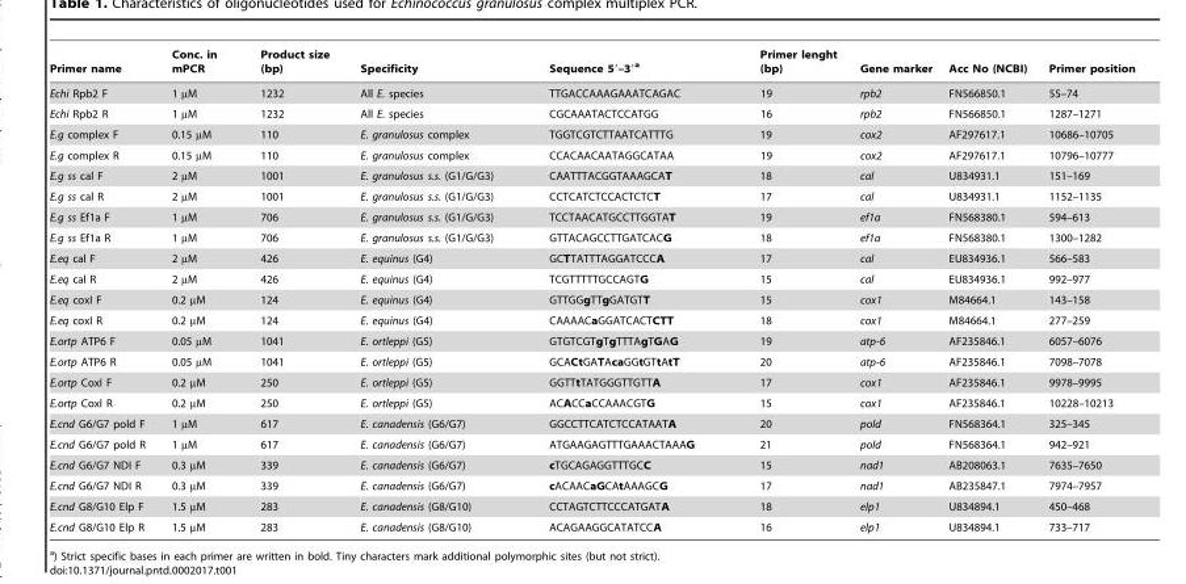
<table><thead><tr><td>Primer name</td><td>Conc. in mPCR</td><td>Product size (bp)</td><td>Specificity</td><td>Sequence 5′–3′<sup>a</sup></td><td>Primer lenght (bp)</td><td>Gene marker</td><td>Acc No (NCBI)</td><td>Primer position</td></tr></thead><tbody><tr><td>Echi Rpb2 F</td><td>1 µM</td><td>1232</td><td>All E. species</td><td>TTGACCAAAGAAATCAGAC</td><td>19</td><td>rpb2</td><td>FN566850.1</td><td>55–74</td></tr><tr><td>Echi Rpb2 R</td><td>1 µM</td><td>1232</td><td>All E. species</td><td>CGCAAATACTCCATGG</td><td>16</td><td>rpb2</td><td>FN566850.1</td><td>1287–1271</td></tr><tr><td>E.g complex F</td><td>0.15 µM</td><td>110</td><td>E. granulosus complex</td><td>TGGTCGTCTTAATCATTTG</td><td>19</td><td>cox2</td><td>AF297617.1</td><td>10686–10705</td></tr><tr><td>E.g complex R</td><td>0.15 µM</td><td>110</td><td>E. granulosus complex</td><td>CCACAACAATAGGCATAA</td><td>19</td><td>cox2</td><td>AF297617.1</td><td>10796–10777</td></tr><tr><td>E.g ss cal F</td><td>2 µM</td><td>1001</td><td>E. granulosus s.s. (G1/G/G3)</td><td>CAATTTACGGTAAAGCAT</td><td>18</td><td>cal</td><td>U834931.1</td><td>151–169</td></tr><tr><td>E.g ss cal R</td><td>2 µM</td><td>1001</td><td>E. granulosus s.s. (G1/G/G3)</td><td>CCTCATCTCCACTCTCT</td><td>17</td><td>cal</td><td>U834931.1</td><td>1152–1135</td></tr><tr><td>E.g ss Ef1a F</td><td>1 µM</td><td>706</td><td>E. granulosus s.s. (G1/G/G3)</td><td>TCCTAACATGCCTTGGTAT</td><td>19</td><td>ef1a</td><td>FN568380.1</td><td>594–613</td></tr><tr><td>E.g ss Ef1a R</td><td>1 µM</td><td>706</td><td>E. granulosus s.s. (G1/G/G3)</td><td>GTTACAGCCTTGATCACG</td><td>18</td><td>ef1a</td><td>FN568380.1</td><td>1300–1282</td></tr><tr><td>E.eq cal F</td><td>2 µM</td><td>426</td><td>E. equinus (G4)</td><td>GCTTATTTAGGATCCCA</td><td>17</td><td>cal</td><td>EU834936.1</td><td>566–583</td></tr><tr><td>E.eq cal R</td><td>2 µM</td><td>426</td><td>E. equinus (G4)</td><td>TCGTTTTTGCCAGTG</td><td>15</td><td>cal</td><td>EU834936.1</td><td>992–977</td></tr><tr><td>E.eq coxI F</td><td>0.2 µM</td><td>124</td><td>E. equinus (G4)</td><td>GTTGGgTTgGATGTT</td><td>15</td><td>cox1</td><td>M84664.1</td><td>143–158</td></tr><tr><td>E.eq coxI R</td><td>0.2 µM</td><td>124</td><td>E. equinus (G4)</td><td>CAAAACaGGATCACTCTT</td><td>18</td><td>cox1</td><td>M84664.1</td><td>277–259</td></tr><tr><td>E.ortp ATP6 F</td><td>0.05 µM</td><td>1041</td><td>E. ortleppi (G5)</td><td>GTGTCGTgTgTTTAgTGAG</td><td>19</td><td>atp-6</td><td>AF235846.1</td><td>6057–6076</td></tr><tr><td>E.ortp ATP6 R</td><td>0.05 µM</td><td>1041</td><td>E. ortleppi (G5)</td><td>GCACtGATAcaGGtGTtAtT</td><td>20</td><td>atp-6</td><td>AF235846.1</td><td>7098–7078</td></tr><tr><td>E.ortp CoxI F</td><td>0.2 µM</td><td>250</td><td>E. ortleppi (G5)</td><td>GGTTtTATGGGTTGTTA</td><td>17</td><td>cox1</td><td>AF235846.1</td><td>9978–9995</td></tr><tr><td>E.ortp CoxI R</td><td>0.2 µM</td><td>250</td><td>E. ortleppi (G5)</td><td>ACACCaCCAAACGTG</td><td>15</td><td>cox1</td><td>AF235846.1</td><td>10228–10213</td></tr><tr><td>E.cnd G6/G7 pold F</td><td>1 µM</td><td>617</td><td>E. canadensis (G6/G7)</td><td>GGCCTTCATCTCCATAATA</td><td>20</td><td>pold</td><td>FN568364.1</td><td>325–345</td></tr><tr><td>E.cnd G6/G7 pold R</td><td>1 µM</td><td>617</td><td>E. canadensis (G6/G7)</td><td>ATGAAGAGTTTGAAACTAAAG</td><td>21</td><td>pold</td><td>FN568364.1</td><td>942–921</td></tr><tr><td>E.cnd G6/G7 NDI F</td><td>0.3 µM</td><td>339</td><td>E. canadensis (G6/G7)</td><td>cTGCAGAGGTTTGCC</td><td>15</td><td>nad1</td><td>AB208063.1</td><td>7635–7650</td></tr><tr><td>E.cnd G6/G7 NDI R</td><td>0.3 µM</td><td>339</td><td>E. canadensis (G6/G7)</td><td>cACAACaGCAtAAAGCG</td><td>17</td><td>nad1</td><td>AB235847.1</td><td>7974–7957</td></tr><tr><td>E.cnd G8/G10 Elp F</td><td>1.5 µM</td><td>283</td><td>E. canadensis (G8/G10)</td><td>CCTAGTCTTCCCATGATA</td><td>18</td><td>elp1</td><td>U834894.1</td><td>450–468</td></tr><tr><td>E.cnd G8/G10 Elp R</td><td>1.5 µM</td><td>283</td><td>E. canadensis (G8/G10)</td><td>ACAGAAGGCATATCCA</td><td>16</td><td>elp1</td><td>U834894.1</td><td>733–717</td></tr></tbody></table>